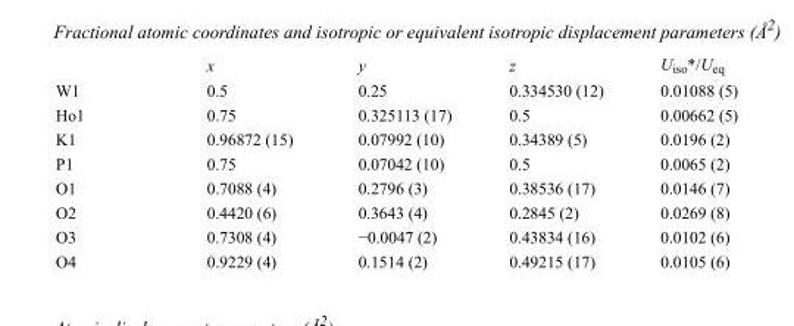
<table><thead><tr><td></td><td>x</td><td>y</td><td>z</td><td>U<sub>iso</sub>*/U<sub>eq</sub></td></tr></thead><tbody><tr><td>W1</td><td>0.5</td><td>0.25</td><td>0.334530 (12)</td><td>0.01088 (5)</td></tr><tr><td>Ho1</td><td>0.75</td><td>0.325113 (17)</td><td>0.5</td><td>0.00662 (5)</td></tr><tr><td>K1</td><td>0.96872 (15)</td><td>0.07992 (10)</td><td>0.34389 (5)</td><td>0.0196 (2)</td></tr><tr><td>P1</td><td>0.75</td><td>0.07042 (10)</td><td>0.5</td><td>0.0065 (2)</td></tr><tr><td>O1</td><td>0.7088 (4)</td><td>0.2796 (3)</td><td>0.38536 (17)</td><td>0.0146 (7)</td></tr><tr><td>O2</td><td>0.4420 (6)</td><td>0.3643 (4)</td><td>0.2845 (2)</td><td>0.0269 (8)</td></tr><tr><td>O3</td><td>0.7308 (4)</td><td>−0.0047 (2)</td><td>0.43834 (16)</td><td>0.0102 (6)</td></tr><tr><td>O4</td><td>0.9229 (4)</td><td>0.1514 (2)</td><td>0.49215 (17)</td><td>0.0105 (6)</td></tr></tbody></table>